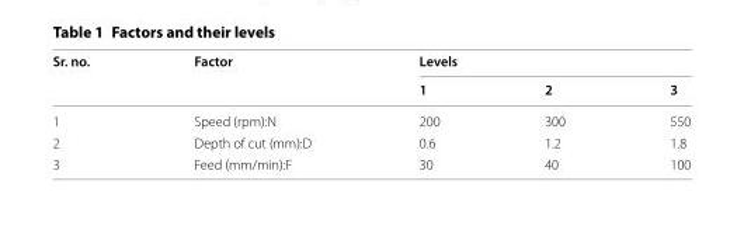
<table><thead><tr><td rowspan="2">Sr. no.</td><td rowspan="2">Factor</td><td colspan="3">Levels</td></tr><tr><td>1</td><td>2</td><td>3</td></tr></thead><tbody><tr><td>1</td><td>Speed (rpm):N</td><td>200</td><td>300</td><td>550</td></tr><tr><td>2</td><td>Depth of cut (mm):D</td><td>0.6</td><td>1.2</td><td>1.8</td></tr><tr><td>3</td><td>Feed (mm/min):F</td><td>30</td><td>40</td><td>100</td></tr></tbody></table>